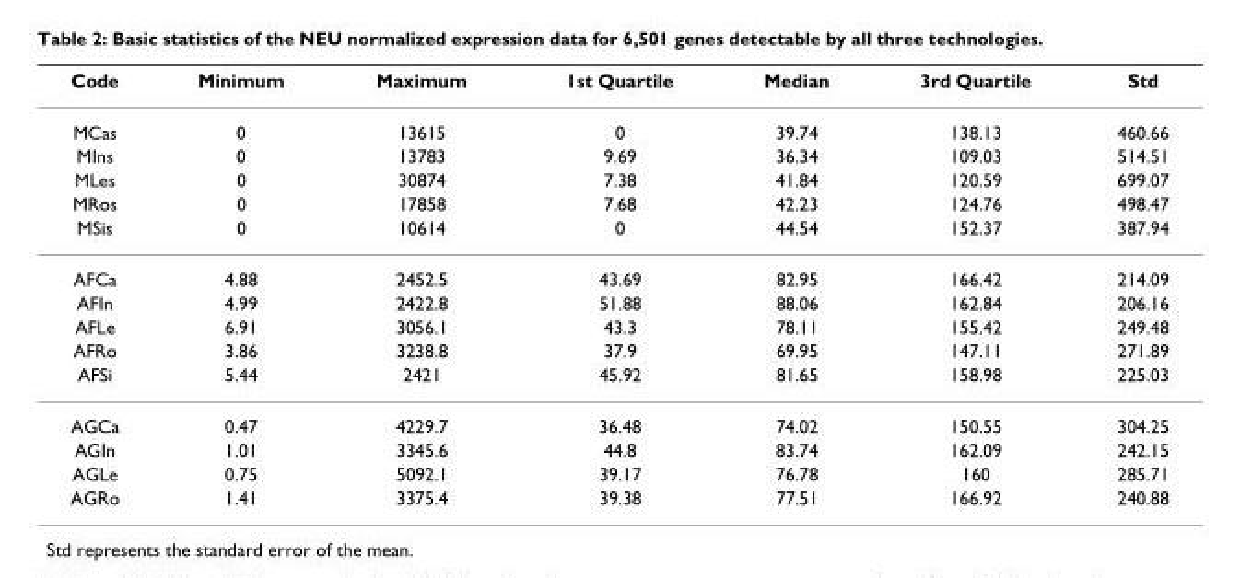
<table><thead><tr><td>Code</td><td>Minimum</td><td>Maximum</td><td>1st Quartile</td><td>Median</td><td>3rd Quartile</td><td>Std</td></tr></thead><tbody><tr><td>MCas</td><td>0</td><td>13615</td><td>0</td><td>39.74</td><td>138.13</td><td>460.66</td></tr><tr><td>MIns</td><td>0</td><td>13783</td><td>9.69</td><td>36.34</td><td>109.03</td><td>514.51</td></tr><tr><td>MLes</td><td>0</td><td>30874</td><td>7.38</td><td>41.84</td><td>120.59</td><td>699.07</td></tr><tr><td>MRos</td><td>0</td><td>17858</td><td>7.68</td><td>42.23</td><td>124.76</td><td>498.47</td></tr><tr><td>MSis</td><td>0</td><td>10614</td><td>0</td><td>44.54</td><td>152.37</td><td>387.94</td></tr><tr><td>AFCa</td><td>4.88</td><td>2452.5</td><td>43.69</td><td>82.95</td><td>166.42</td><td>214.09</td></tr><tr><td>AFIn</td><td>4.99</td><td>2422.8</td><td>51.88</td><td>88.06</td><td>162.84</td><td>206.16</td></tr><tr><td>AFLe</td><td>6.91</td><td>3056.1</td><td>43.3</td><td>78.11</td><td>155.42</td><td>249.48</td></tr><tr><td>AFRo</td><td>3.86</td><td>3238.8</td><td>37.9</td><td>69.95</td><td>147.11</td><td>271.89</td></tr><tr><td>AFSi</td><td>5.44</td><td>2421</td><td>45.92</td><td>81.65</td><td>158.98</td><td>225.03</td></tr><tr><td>AGCa</td><td>0.47</td><td>4229.7</td><td>36.48</td><td>74.02</td><td>150.55</td><td>304.25</td></tr><tr><td>AGIn</td><td>1.01</td><td>3345.6</td><td>44.8</td><td>83.74</td><td>162.09</td><td>242.15</td></tr><tr><td>AGLe</td><td>0.75</td><td>5092.1</td><td>39.17</td><td>76.78</td><td>160</td><td>285.71</td></tr><tr><td>AGRo</td><td>1.41</td><td>3375.4</td><td>39.38</td><td>77.51</td><td>166.92</td><td>240.88</td></tr></tbody></table>